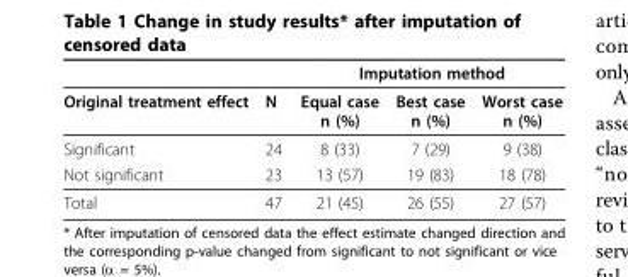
<table><thead><tr><td rowspan="2">Original treatment effect</td><td rowspan="2">N</td><td colspan="3">Imputation method</td></tr><tr><td>Equal case n (%)</td><td>Best case n (%)</td><td>Worst case n (%)</td></tr></thead><tbody><tr><td>Significant</td><td>24</td><td>8 (33)</td><td>7 (29)</td><td>9 (38)</td></tr><tr><td>Not significant</td><td>23</td><td>13 (57)</td><td>19 (83)</td><td>18 (78)</td></tr><tr><td>Total</td><td>47</td><td>21 (45)</td><td>26 (55)</td><td>27 (57)</td></tr></tbody></table>